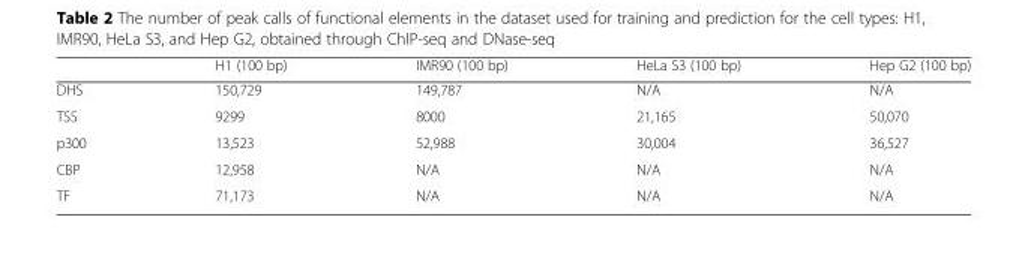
<table><thead><tr><td></td><td>H1 (100 bp)</td><td>IMR90 (100 bp)</td><td>HeLa S3 (100 bp)</td><td>Hep G2 (100 bp)</td></tr></thead><tbody><tr><td>DHS</td><td>150,729</td><td>149,787</td><td>N/A</td><td>N/A</td></tr><tr><td>TSS</td><td>9299</td><td>8000</td><td>21,165</td><td>50,070</td></tr><tr><td>p300</td><td>13,523</td><td>52,988</td><td>30,004</td><td>36,527</td></tr><tr><td>CBP</td><td>12,958</td><td>N/A</td><td>N/A</td><td>N/A</td></tr><tr><td>TF</td><td>71,173</td><td>N/A</td><td>N/A</td><td>N/A</td></tr></tbody></table>